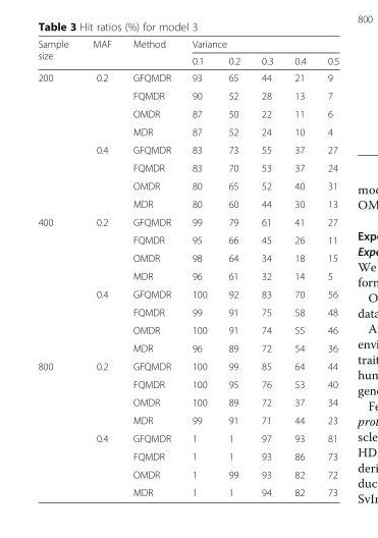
<table><thead><tr><td rowspan="2">Sample size</td><td rowspan="2">MAF</td><td rowspan="2">Method</td><td colspan="5">Variance</td></tr><tr><td>0.1</td><td>0.2</td><td>0.3</td><td>0.4</td><td>0.5</td></tr></thead><tbody><tr><td rowspan="8">200</td><td rowspan="4">0.2</td><td>GFQMDR</td><td>93</td><td>65</td><td>44</td><td>21</td><td>9</td></tr><tr><td>FQMDR</td><td>90</td><td>52</td><td>28</td><td>13</td><td>7</td></tr><tr><td>OMDR</td><td>87</td><td>50</td><td>22</td><td>11</td><td>6</td></tr><tr><td>MDR</td><td>87</td><td>52</td><td>24</td><td>10</td><td>4</td></tr><tr><td rowspan="4">0.4</td><td>GFQMDR</td><td>83</td><td>73</td><td>55</td><td>37</td><td>27</td></tr><tr><td>FQMDR</td><td>83</td><td>70</td><td>53</td><td>37</td><td>24</td></tr><tr><td>OMDR</td><td>80</td><td>65</td><td>52</td><td>40</td><td>31</td></tr><tr><td>MDR</td><td>80</td><td>60</td><td>44</td><td>30</td><td>13</td></tr><tr><td rowspan="8">400</td><td rowspan="4">0.2</td><td>GFQMDR</td><td>99</td><td>79</td><td>61</td><td>41</td><td>27</td></tr><tr><td>FQMDR</td><td>95</td><td>66</td><td>45</td><td>26</td><td>11</td></tr><tr><td>OMDR</td><td>98</td><td>64</td><td>34</td><td>18</td><td>15</td></tr><tr><td>MDR</td><td>96</td><td>61</td><td>32</td><td>14</td><td>5</td></tr><tr><td rowspan="4">0.4</td><td>GFQMDR</td><td>100</td><td>92</td><td>83</td><td>70</td><td>56</td></tr><tr><td>FQMDR</td><td>99</td><td>91</td><td>75</td><td>58</td><td>48</td></tr><tr><td>OMDR</td><td>100</td><td>91</td><td>74</td><td>55</td><td>46</td></tr><tr><td>MDR</td><td>96</td><td>89</td><td>72</td><td>54</td><td>36</td></tr><tr><td rowspan="8">800</td><td rowspan="4">0.2</td><td>GFQMDR</td><td>100</td><td>99</td><td>85</td><td>64</td><td>44</td></tr><tr><td>FQMDR</td><td>100</td><td>95</td><td>76</td><td>53</td><td>40</td></tr><tr><td>OMDR</td><td>100</td><td>89</td><td>72</td><td>37</td><td>34</td></tr><tr><td>MDR</td><td>99</td><td>91</td><td>71</td><td>44</td><td>23</td></tr><tr><td rowspan="4">0.4</td><td>GFQMDR</td><td>1</td><td>1</td><td>97</td><td>93</td><td>81</td></tr><tr><td>FQMDR</td><td>1</td><td>1</td><td>93</td><td>86</td><td>73</td></tr><tr><td>OMDR</td><td>1</td><td>99</td><td>93</td><td>82</td><td>72</td></tr><tr><td>MDR</td><td>1</td><td>1</td><td>94</td><td>82</td><td>73</td></tr></tbody></table>